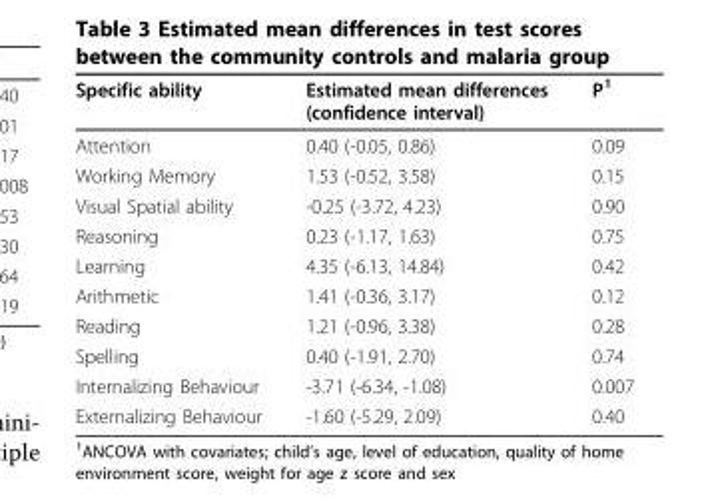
<table><thead><tr><td>Specific ability</td><td>Estimated mean differences (confidence interval)</td><td>P<sup>1</sup></td></tr></thead><tbody><tr><td>Attention</td><td>0.40 (-0.05, 0.86)</td><td>0.09</td></tr><tr><td>Working Memory</td><td>1.53 (-0.52, 3.58)</td><td>0.15</td></tr><tr><td>Visual Spatial ability</td><td>-0.25 (-3.72, 4.23)</td><td>0.90</td></tr><tr><td>Reasoning</td><td>0.23 (-1.17, 1.63)</td><td>0.75</td></tr><tr><td>Learning</td><td>4.35 (-6.13, 14.84)</td><td>0.42</td></tr><tr><td>Arithmetic</td><td>1.41 (-0.36, 3.17)</td><td>0.12</td></tr><tr><td>Reading</td><td>1.21 (-0.96, 3.38)</td><td>0.28</td></tr><tr><td>Spelling</td><td>0.40 (-1.91, 2.70)</td><td>0.74</td></tr><tr><td>Internalizing Behaviour</td><td>-3.71 (-6.34, -1.08)</td><td>0.007</td></tr><tr><td>Externalizing Behaviour</td><td>-1.60 (-5.29, 2.09)</td><td>0.40</td></tr></tbody></table>